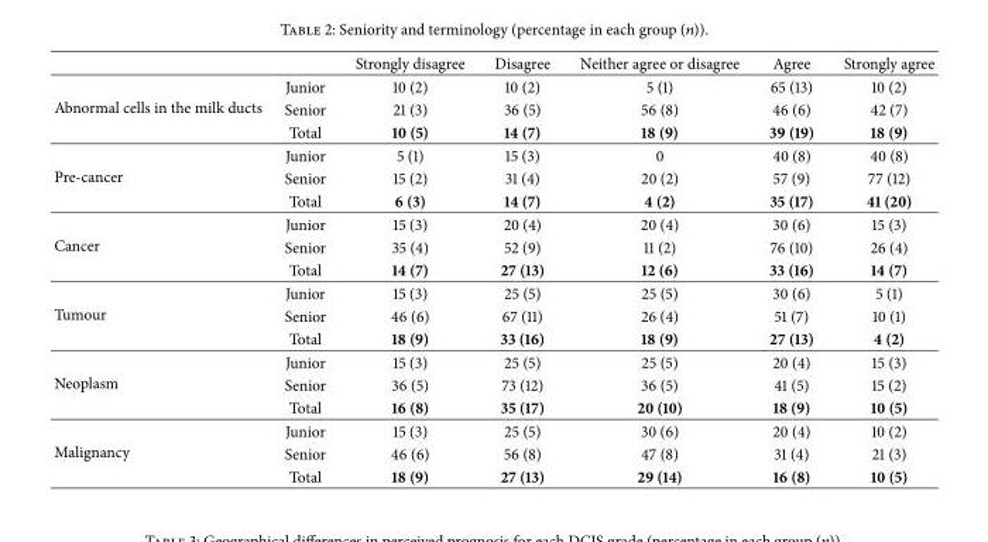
<table><thead><tr><td></td><td></td><td>Strongly disagree</td><td>Disagree</td><td>Neither agree or disagree</td><td>Agree</td><td>Strongly agree</td></tr></thead><tbody><tr><td rowspan="3">Abnormal cells in the milk ducts</td><td>Junior</td><td>10 (2)</td><td>10 (2)</td><td>5 (1)</td><td>65 (13)</td><td>10 (2)</td></tr><tr><td>Senior</td><td>21 (3)</td><td>36 (5)</td><td>56 (8)</td><td>46 (6)</td><td>42 (7)</td></tr><tr><td>Total</td><td>10 (5)</td><td>14 (7)</td><td>18 (9)</td><td>39 (19)</td><td>18 (9)</td></tr><tr><td rowspan="3">Pre-cancer</td><td>Junior</td><td>5 (1)</td><td>15 (3)</td><td>0</td><td>40 (8)</td><td>40 (8)</td></tr><tr><td>Senior</td><td>15 (2)</td><td>31 (4)</td><td>20 (2)</td><td>57 (9)</td><td>77 (12)</td></tr><tr><td>Total</td><td>6 (3)</td><td>14 (7)</td><td>4 (2)</td><td>35 (17)</td><td>41 (20)</td></tr><tr><td rowspan="3">Cancer</td><td>Junior</td><td>15 (3)</td><td>20 (4)</td><td>20 (4)</td><td>30 (6)</td><td>15 (3)</td></tr><tr><td>Senior</td><td>35 (4)</td><td>52 (9)</td><td>11 (2)</td><td>76 (10)</td><td>26 (4)</td></tr><tr><td>Total</td><td>14 (7)</td><td>27 (13)</td><td>12 (6)</td><td>33 (16)</td><td>14 (7)</td></tr><tr><td rowspan="3">Tumour</td><td>Junior</td><td>15 (3)</td><td>25 (5)</td><td>25 (5)</td><td>30 (6)</td><td>5 (1)</td></tr><tr><td>Senior</td><td>46 (6)</td><td>67 (11)</td><td>26 (4)</td><td>51 (7)</td><td>10 (1)</td></tr><tr><td>Total</td><td>18 (9)</td><td>33 (16)</td><td>18 (9)</td><td>27 (13)</td><td>4 (2)</td></tr><tr><td rowspan="3">Neoplasm</td><td>Junior</td><td>15 (3)</td><td>25 (5)</td><td>25 (5)</td><td>20 (4)</td><td>15 (3)</td></tr><tr><td>Senior</td><td>36 (5)</td><td>73 (12)</td><td>36 (5)</td><td>41 (5)</td><td>15 (2)</td></tr><tr><td>Total</td><td>16 (8)</td><td>35 (17)</td><td>20 (10)</td><td>18 (9)</td><td>10 (5)</td></tr><tr><td rowspan="3">Malignancy</td><td>Junior</td><td>15 (3)</td><td>25 (5)</td><td>30 (6)</td><td>20 (4)</td><td>10 (2)</td></tr><tr><td>Senior</td><td>46 (6)</td><td>56 (8)</td><td>47 (8)</td><td>31 (4)</td><td>21 (3)</td></tr><tr><td>Total</td><td>18 (9)</td><td>27 (13)</td><td>29 (14)</td><td>16 (8)</td><td>10 (5)</td></tr></tbody></table>